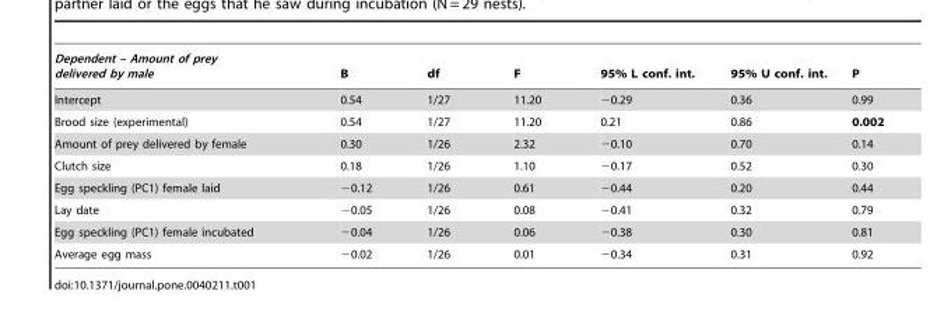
<table><thead><tr><td>Dependent – Amount of prey delivered by male</td><td>B</td><td>df</td><td>F</td><td>95% L conf. int.</td><td>95% U conf. int.</td><td>P</td></tr></thead><tbody><tr><td>Intercept</td><td>0.54</td><td>1/27</td><td>11.20</td><td>−0.29</td><td>0.36</td><td>0.99</td></tr><tr><td>Brood size (experimental)</td><td>0.54</td><td>1/27</td><td>11.20</td><td>0.21</td><td>0.86</td><td>0.002</td></tr><tr><td>Amount of prey delivered by female</td><td>0.30</td><td>1/26</td><td>2.32</td><td>−0.10</td><td>0.70</td><td>0.14</td></tr><tr><td>Clutch size</td><td>0.18</td><td>1/26</td><td>1.10</td><td>−0.17</td><td>0.52</td><td>0.30</td></tr><tr><td>Egg speckling (PC1) female laid</td><td>−0.12</td><td>1/26</td><td>0.61</td><td>−0.44</td><td>0.20</td><td>0.44</td></tr><tr><td>Lay date</td><td>−0.05</td><td>1/26</td><td>0.08</td><td>−0.41</td><td>0.32</td><td>0.79</td></tr><tr><td>Egg speckling (PC1) female incubated</td><td>−0.04</td><td>1/26</td><td>0.06</td><td>−0.38</td><td>0.30</td><td>0.81</td></tr><tr><td>Average egg mass</td><td>−0.02</td><td>1/26</td><td>0.01</td><td>−0.34</td><td>0.31</td><td>0.92</td></tr></tbody></table>